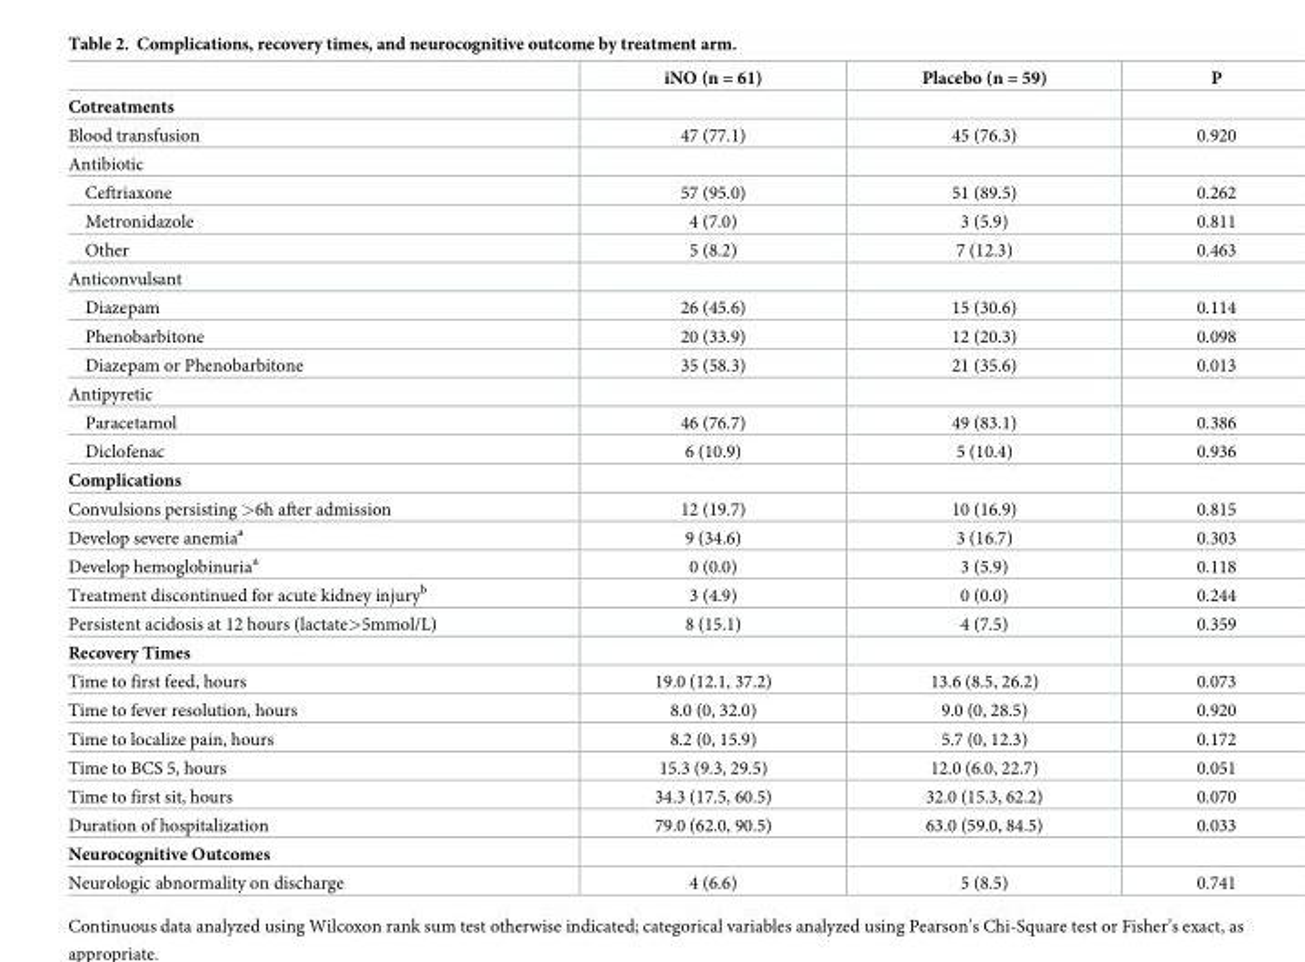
<table><thead><tr><td></td><td>iNO (n = 61)</td><td>Placebo (n = 59)</td><td>P</td></tr></thead><tbody><tr><td colspan="4">Cotreatments</td></tr><tr><td>Blood transfusion</td><td>47 (77.1)</td><td>45 (76.3)</td><td>0.920</td></tr><tr><td colspan="4">Antibiotic</td></tr><tr><td>Ceftriaxone</td><td>57 (95.0)</td><td>51 (89.5)</td><td>0.262</td></tr><tr><td>Metronidazole</td><td>4 (7.0)</td><td>3 (5.9)</td><td>0.811</td></tr><tr><td>Other</td><td>5 (8.2)</td><td>7 (12.3)</td><td>0.463</td></tr><tr><td colspan="4">Anticonvulsant</td></tr><tr><td>Diazepam</td><td>26 (45.6)</td><td>15 (30.6)</td><td>0.114</td></tr><tr><td>Phenobarbitone</td><td>20 (33.9)</td><td>12 (20.3)</td><td>0.098</td></tr><tr><td>Diazepam or Phenobarbitone</td><td>35 (58.3)</td><td>21 (35.6)</td><td>0.013</td></tr><tr><td colspan="4">Antipyretic</td></tr><tr><td>Paracetamol</td><td>46 (76.7)</td><td>49 (83.1)</td><td>0.386</td></tr><tr><td>Diclofenac</td><td>6 (10.9)</td><td>5 (10.4)</td><td>0.936</td></tr><tr><td colspan="4">Complications</td></tr><tr><td>Convulsions persisting &gt;6h after admission</td><td>12 (19.7)</td><td>10 (16.9)</td><td>0.815</td></tr><tr><td>Develop severe anemia<sup>a</sup></td><td>9 (34.6)</td><td>3 (16.7)</td><td>0.303</td></tr><tr><td>Develop hemoglobinuria<sup>a</sup></td><td>0 (0.0)</td><td>3 (5.9)</td><td>0.118</td></tr><tr><td>Treatment discontinued for acute kidney injury<sup>b</sup></td><td>3 (4.9)</td><td>0 (0.0)</td><td>0.244</td></tr><tr><td>Persistent acidosis at 12 hours (lactate&gt;5mmol/L)</td><td>8 (15.1)</td><td>4 (7.5)</td><td>0.359</td></tr><tr><td colspan="4">Recovery Times</td></tr><tr><td>Time to first feed, hours</td><td>19.0 (12.1, 37.2)</td><td>13.6 (8.5, 26.2)</td><td>0.073</td></tr><tr><td>Time to fever resolution, hours</td><td>8.0 (0, 32.0)</td><td>9.0 (0, 28.5)</td><td>0.920</td></tr><tr><td>Time to localize pain, hours</td><td>8.2 (0, 15.9)</td><td>5.7 (0, 12.3)</td><td>0.172</td></tr><tr><td>Time to BCS 5, hours</td><td>15.3 (9.3, 29.5)</td><td>12.0 (6.0, 22.7)</td><td>0.051</td></tr><tr><td>Time to first sit, hours</td><td>34.3 (17.5, 60.5)</td><td>32.0 (15.3, 62.2)</td><td>0.070</td></tr><tr><td>Duration of hospitalization</td><td>79.0 (62.0, 90.5)</td><td>63.0 (59.0, 84.5)</td><td>0.033</td></tr><tr><td colspan="4">Neurocognitive Outcomes</td></tr><tr><td>Neurologic abnormality on discharge</td><td>4 (6.6)</td><td>5 (8.5)</td><td>0.741</td></tr></tbody></table>